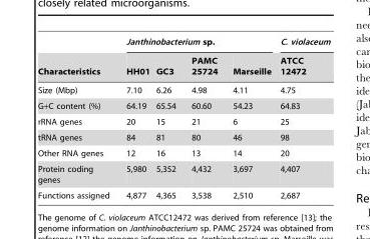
<table><thead><tr><td rowspan="2">Characteristics</td><td colspan="4">Janthinobacterium sp.</td><td rowspan="2">C. violaceum ATCC 12472</td></tr><tr><td>HH01</td><td>GC3</td><td>PAMC 25724</td><td>Marseille</td></tr></thead><tbody><tr><td>Size (Mbp)</td><td>7.10</td><td>6.26</td><td>4.98</td><td>4.11</td><td>4.75</td></tr><tr><td>G+C content (%)</td><td>64.19</td><td>65.54</td><td>60.60</td><td>54.23</td><td>64.83</td></tr><tr><td>rRNA genes</td><td>20</td><td>15</td><td>21</td><td>6</td><td>25</td></tr><tr><td>tRNA genes</td><td>84</td><td>81</td><td>80</td><td>46</td><td>98</td></tr><tr><td>Other RNA genes</td><td>12</td><td>16</td><td>13</td><td>14</td><td>20</td></tr><tr><td>Protein coding genes</td><td>5,980</td><td>5,352</td><td>4,432</td><td>3,697</td><td>4,407</td></tr><tr><td>Functions assigned</td><td>4,877</td><td>4,365</td><td>3,538</td><td>2,510</td><td>2,687</td></tr></tbody></table>